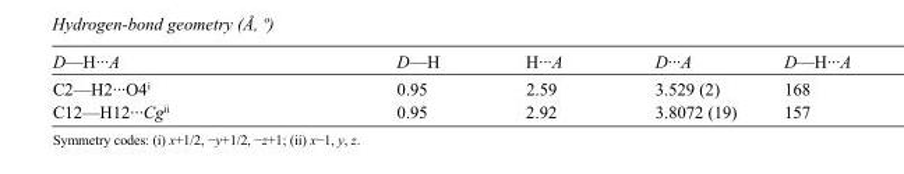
<table><tbody><tr><td>D—H···A</td><td>D—H</td><td>H···A</td><td>D···A</td><td>D—H···A</td></tr><tr><td>C2—H2···O4<sup>i</sup></td><td>0.95</td><td>2.59</td><td>3.529 (2)</td><td>168</td></tr><tr><td>C12—H12···Cg<sup>ii</sup></td><td>0.95</td><td>2.92</td><td>3.8072 (19)</td><td>157</td></tr></tbody></table>